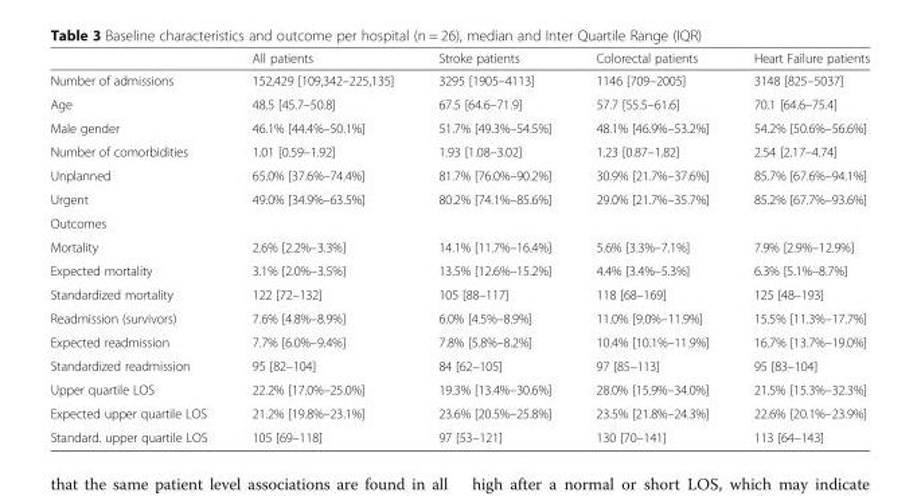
<table><thead><tr><td></td><td>All patients</td><td>Stroke patients</td><td>Colorectal patients</td><td>Heart Failure patients</td></tr></thead><tbody><tr><td>Number of admissions</td><td>152,429 [109,342–225,135]</td><td>3295 [1905–4113]</td><td>1146 [709–2005]</td><td>3148 [825–5037]</td></tr><tr><td>Age</td><td>48.5 [45.7–50.8]</td><td>67.5 [64.6–71.9]</td><td>57.7 [55.5–61.6]</td><td>70.1 [64.6–75.4]</td></tr><tr><td>Male gender</td><td>46.1% [44.4%–50.1%]</td><td>51.7% [49.3%–54.5%]</td><td>48.1% [46.9%–53.2%]</td><td>54.2% [50.6%–56.6%]</td></tr><tr><td>Number of comorbidities</td><td>1.01 [0.59–1.92]</td><td>1.93 [1.08–3.02]</td><td>1.23 [0.87–1.82]</td><td>2.54 [2.17–4.74]</td></tr><tr><td>Unplanned</td><td>65.0% [37.6%–74.4%]</td><td>81.7% [76.0%–90.2%]</td><td>30.9% [21.7%–37.6%]</td><td>85.7% [67.6%–94.1%]</td></tr><tr><td>Urgent</td><td>49.0% [34.9%–63.5%]</td><td>80.2% [74.1%–85.6%]</td><td>29.0% [21.7%–35.7%]</td><td>85.2% [67.7%–93.6%]</td></tr><tr><td colspan="5">Outcomes</td></tr><tr><td>Mortality</td><td>2.6% [2.2%–3.3%]</td><td>14.1% [11.7%–16.4%]</td><td>5.6% [3.3%–7.1%]</td><td>7.9% [2.9%–12.9%]</td></tr><tr><td>Expected mortality</td><td>3.1% [2.0%–3.5%]</td><td>13.5% [12.6%–15.2%]</td><td>4.4% [3.4%–5.3%]</td><td>6.3% [5.1%–8.7%]</td></tr><tr><td>Standardized mortality</td><td>122 [72–132]</td><td>105 [88–117]</td><td>118 [68–169]</td><td>125 [48–193]</td></tr><tr><td>Readmission (survivors)</td><td>7.6% [4.8%–8.9%]</td><td>6.0% [4.5%–8.9%]</td><td>11.0% [9.0%–11.9%]</td><td>15.5% [11.3%–17.7%]</td></tr><tr><td>Expected readmission</td><td>7.7% [6.0%–9.4%]</td><td>7.8% [5.8%–8.2%]</td><td>10.4% [10.1%–11.9%]</td><td>16.7% [13.7%–19.0%]</td></tr><tr><td>Standardized readmission</td><td>95 [82–104]</td><td>84 [62–105]</td><td>97 [85–113]</td><td>95 [83–104]</td></tr><tr><td>Upper quartile LOS</td><td>22.2% [17.0%–25.0%]</td><td>19.3% [13.4%–30.6%]</td><td>28.0% [15.9%–34.0%]</td><td>21.5% [15.3%–32.3%]</td></tr><tr><td>Expected upper quartile LOS</td><td>21.2% [19.8%–23.1%]</td><td>23.6% [20.5%–25.8%]</td><td>23.5% [21.8%–24.3%]</td><td>22.6% [20.1%–23.9%]</td></tr><tr><td>Standard. upper quartile LOS</td><td>105 [69–118]</td><td>97 [53–121]</td><td>130 [70–141]</td><td>113 [64–143]</td></tr></tbody></table>